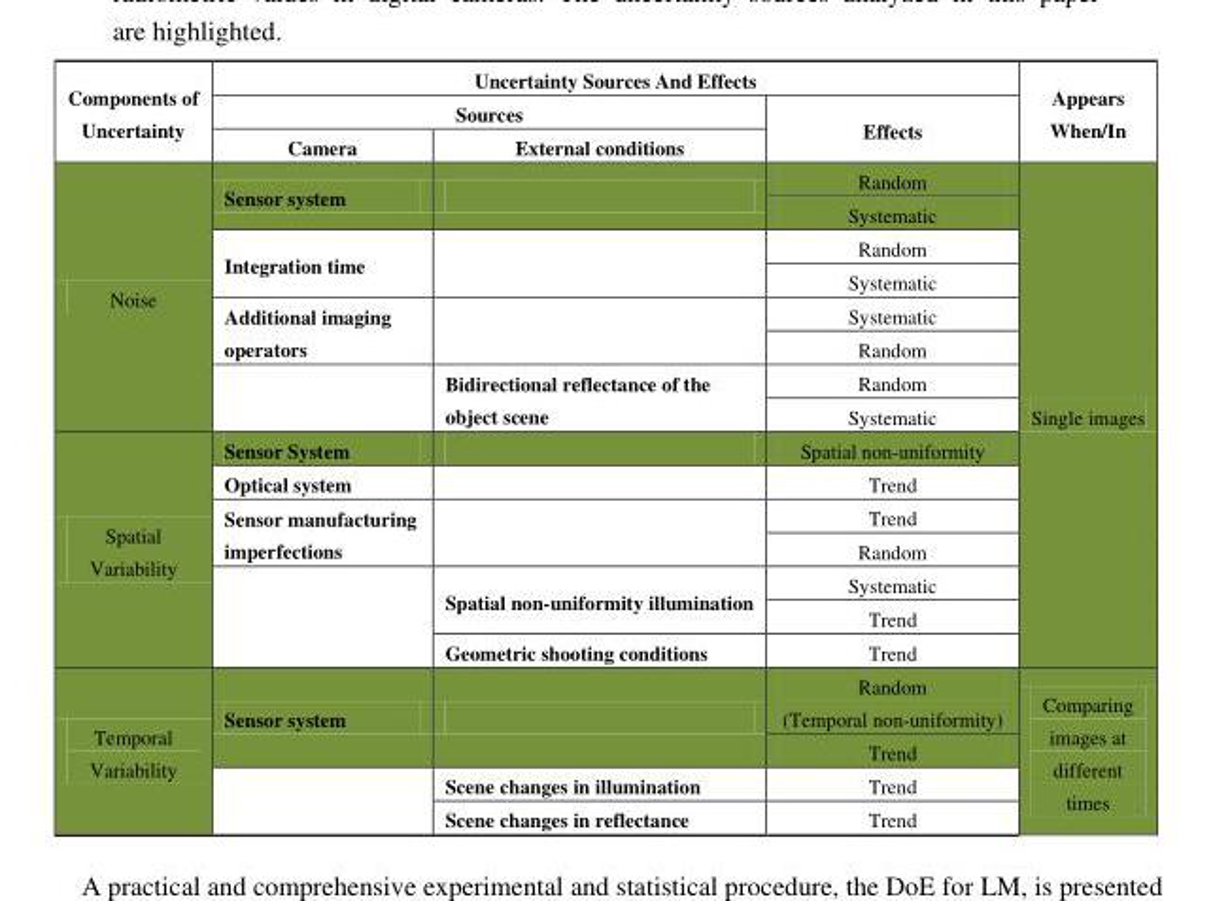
<table><thead><tr><td rowspan="3">Components of Uncertainty</td><td colspan="3">Uncertainty Sources And Effects</td><td rowspan="3">Appears When/In</td></tr><tr><td colspan="2">Sources</td><td rowspan="2">Effects</td></tr><tr><td>Camera</td><td>External conditions</td></tr></thead><tbody><tr><td rowspan="8">Noise</td><td rowspan="2">Sensor system</td><td rowspan="2"></td><td>Random</td><td rowspan="15">Single images</td></tr><tr><td>Systematic</td></tr><tr><td rowspan="2">Integration time</td><td rowspan="2"></td><td>Random</td></tr><tr><td>Systematic</td></tr><tr><td rowspan="2">Additional imaging operators</td><td rowspan="2"></td><td>Systematic</td></tr><tr><td>Random</td></tr><tr><td rowspan="2"></td><td rowspan="2">Bidirectional reflectance of the object scene</td><td>Random</td></tr><tr><td>Systematic</td></tr><tr><td rowspan="7">Spatial Variability</td><td>Sensor System</td><td></td><td>Spatial non-uniformity</td></tr><tr><td>Optical system</td><td></td><td>Trend</td></tr><tr><td rowspan="2">Sensor manufacturing imperfections</td><td rowspan="2"></td><td>Trend</td></tr><tr><td>Random</td></tr><tr><td rowspan="3"></td><td rowspan="2">Spatial non-uniformity illumination</td><td>Systematic</td></tr><tr><td>Trend</td></tr><tr><td>Geometric shooting conditions</td><td>Trend</td></tr><tr><td rowspan="4">Temporal Variability</td><td rowspan="2">Sensor system</td><td rowspan="2"></td><td>Random (Temporal non-uniformity)</td><td rowspan="4">Comparing images at different times</td></tr><tr><td>Trend</td></tr><tr><td rowspan="2"></td><td>Scene changes in illumination</td><td>Trend</td></tr><tr><td>Scene changes in reflectance</td><td>Trend</td></tr></tbody></table>